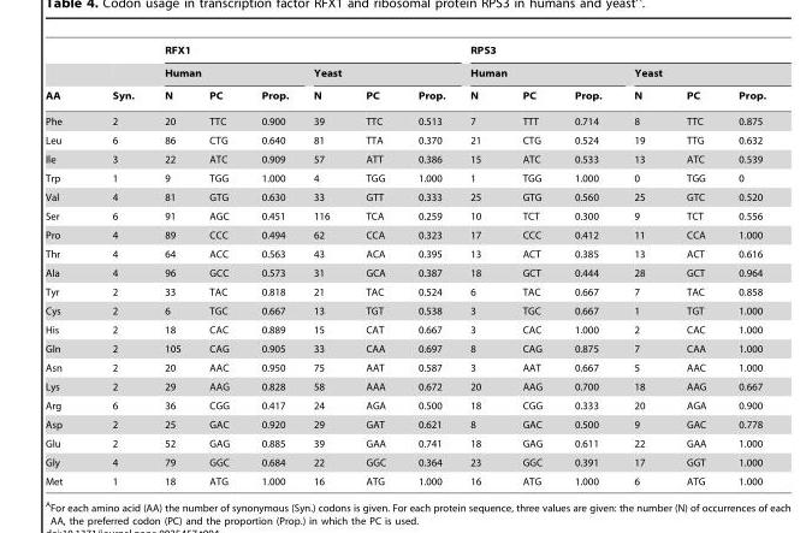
<table><thead><tr><td rowspan="3">AA</td><td rowspan="3">Syn.</td><td colspan="6">RFX1</td><td colspan="6">RPS3</td></tr><tr><td colspan="3">Human</td><td colspan="3">Yeast</td><td colspan="3">Human</td><td colspan="3">Yeast</td></tr><tr><td>N</td><td>PC</td><td>Prop.</td><td>N</td><td>PC</td><td>Prop.</td><td>N</td><td>PC</td><td>Prop.</td><td>N</td><td>PC</td><td>Prop.</td></tr></thead><tbody><tr><td>Phe</td><td>2</td><td>20</td><td>TTC</td><td>0.900</td><td>39</td><td>TTC</td><td>0.513</td><td>7</td><td>TTT</td><td>0.714</td><td>8</td><td>TTC</td><td>0.875</td></tr><tr><td>Leu</td><td>6</td><td>86</td><td>CTG</td><td>0.640</td><td>81</td><td>TTA</td><td>0.370</td><td>21</td><td>CTG</td><td>0.524</td><td>19</td><td>TTG</td><td>0.632</td></tr><tr><td>Ile</td><td>3</td><td>22</td><td>ATC</td><td>0.909</td><td>57</td><td>ATT</td><td>0.386</td><td>15</td><td>ATC</td><td>0.533</td><td>13</td><td>ATC</td><td>0.539</td></tr><tr><td>Trp</td><td>1</td><td>9</td><td>TGG</td><td>1.000</td><td>4</td><td>TGG</td><td>1.000</td><td>1</td><td>TGG</td><td>1.000</td><td>0</td><td>TGG</td><td>0</td></tr><tr><td>Val</td><td>4</td><td>81</td><td>GTG</td><td>0.630</td><td>33</td><td>GTT</td><td>0.333</td><td>25</td><td>GTG</td><td>0.560</td><td>25</td><td>GTC</td><td>0.520</td></tr><tr><td>Ser</td><td>6</td><td>91</td><td>AGC</td><td>0.451</td><td>116</td><td>TCA</td><td>0.259</td><td>10</td><td>TCT</td><td>0.300</td><td>9</td><td>TCT</td><td>0.556</td></tr><tr><td>Pro</td><td>4</td><td>89</td><td>CCC</td><td>0.494</td><td>62</td><td>CCA</td><td>0.323</td><td>17</td><td>CCC</td><td>0.412</td><td>11</td><td>CCA</td><td>1.000</td></tr><tr><td>Thr</td><td>4</td><td>64</td><td>ACC</td><td>0.563</td><td>43</td><td>ACA</td><td>0.395</td><td>13</td><td>ACT</td><td>0.385</td><td>13</td><td>ACT</td><td>0.616</td></tr><tr><td>Ala</td><td>4</td><td>96</td><td>GCC</td><td>0.573</td><td>31</td><td>GCA</td><td>0.387</td><td>18</td><td>GCT</td><td>0.444</td><td>28</td><td>GCT</td><td>0.964</td></tr><tr><td>Tyr</td><td>2</td><td>33</td><td>TAC</td><td>0.818</td><td>21</td><td>TAC</td><td>0.524</td><td>6</td><td>TAC</td><td>0.667</td><td>7</td><td>TAC</td><td>0.858</td></tr><tr><td>Cys</td><td>2</td><td>6</td><td>TGC</td><td>0.667</td><td>13</td><td>TGT</td><td>0.538</td><td>3</td><td>TGC</td><td>0.667</td><td>1</td><td>TGT</td><td>1.000</td></tr><tr><td>His</td><td>2</td><td>18</td><td>CAC</td><td>0.889</td><td>15</td><td>CAT</td><td>0.667</td><td>3</td><td>CAC</td><td>1.000</td><td>2</td><td>CAC</td><td>1.000</td></tr><tr><td>Gln</td><td>2</td><td>105</td><td>CAG</td><td>0.905</td><td>33</td><td>CAA</td><td>0.697</td><td>8</td><td>CAG</td><td>0.875</td><td>7</td><td>CAA</td><td>1.000</td></tr><tr><td>Asn</td><td>2</td><td>20</td><td>AAC</td><td>0.950</td><td>75</td><td>AAT</td><td>0.587</td><td>3</td><td>AAT</td><td>0.667</td><td>5</td><td>AAC</td><td>1.000</td></tr><tr><td>Lys</td><td>2</td><td>29</td><td>AAG</td><td>0.828</td><td>58</td><td>AAA</td><td>0.672</td><td>20</td><td>AAG</td><td>0.700</td><td>18</td><td>AAG</td><td>0.667</td></tr><tr><td>Arg</td><td>6</td><td>36</td><td>CGG</td><td>0.417</td><td>24</td><td>AGA</td><td>0.500</td><td>18</td><td>CGG</td><td>0.333</td><td>20</td><td>AGA</td><td>0.900</td></tr><tr><td>Asp</td><td>2</td><td>25</td><td>GAC</td><td>0.920</td><td>29</td><td>GAT</td><td>0.621</td><td>8</td><td>GAC</td><td>0.500</td><td>9</td><td>GAC</td><td>0.778</td></tr><tr><td>Glu</td><td>2</td><td>52</td><td>GAG</td><td>0.885</td><td>39</td><td>GAA</td><td>0.741</td><td>18</td><td>GAG</td><td>0.611</td><td>22</td><td>GAA</td><td>1.000</td></tr><tr><td>Gly</td><td>4</td><td>79</td><td>GGC</td><td>0.684</td><td>22</td><td>GGC</td><td>0.364</td><td>23</td><td>GGC</td><td>0.391</td><td>17</td><td>GGT</td><td>1.000</td></tr><tr><td>Met</td><td>1</td><td>18</td><td>ATG</td><td>1.000</td><td>16</td><td>ATG</td><td>1.000</td><td>16</td><td>ATG</td><td>1.000</td><td>6</td><td>ATG</td><td>1.000</td></tr></tbody></table>